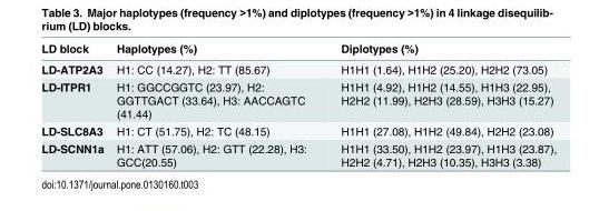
<table><thead><tr><td>LD block</td><td>Haplotypes (%)</td><td>Diplotypes (%)</td></tr></thead><tbody><tr><td>LD-ATP2A3</td><td>H1: CC (14.27), H2: TT (85.67)</td><td>H1H1 (1.64), H1H2 (25.20), H2H2 (73.05)</td></tr><tr><td>LD-ITPR1</td><td>H1: GGCCGGTC (23.97), H2: GGTTGACT (33.64), H3: AACCAGTC (41.44)</td><td>H1H1 (4.92), H1H2 (14.55), H1H3 (22.95), H2H2 (11.99), H2H3 (28.59), H3H3 (15.27)</td></tr><tr><td>LD-SLC8A3</td><td>H1: CT (51.75), H2: TC (48.15)</td><td>H1H1 (27.08), H1H2 (49.84), H2H2 (23.08)</td></tr><tr><td>LD-SCNN1a</td><td>H1: ATT (57.06), H2: GTT (22.28), H3: GCC(20.55)</td><td>H1H1 (33.50), H1H2 (23.97), H1H3 (23.87), H2H2 (4.71), H2H3 (10.35), H3H3 (3.38)</td></tr></tbody></table>